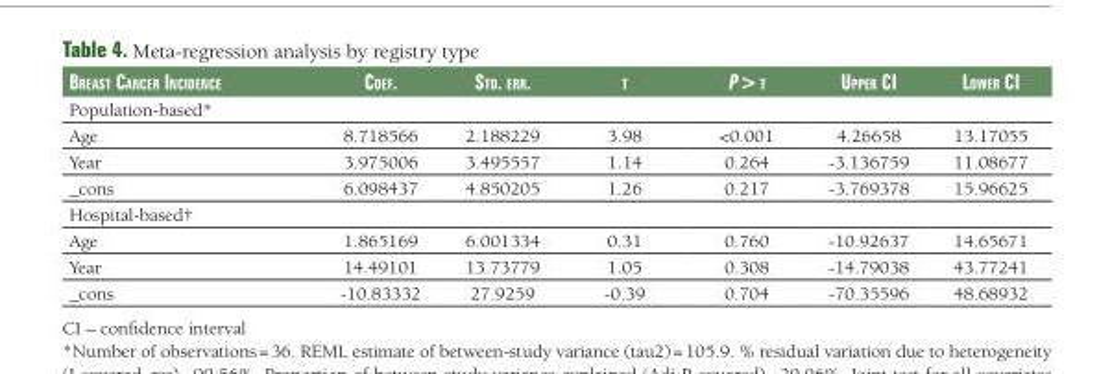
<table><thead><tr><td>breaSt caNcer iNcideNce</td><td>coef.</td><td>Std. err.</td><td>t</td><td>p &gt; t</td><td>upper ci</td><td>lower ci</td></tr></thead><tbody><tr><td colspan="7">Population-based*</td></tr><tr><td>Age</td><td>8.718566</td><td>2.188229</td><td>3.98</td><td>&lt;0.001</td><td>4.26658</td><td>13.17055</td></tr><tr><td>Year</td><td>3.975006</td><td>3.495557</td><td>1.14</td><td>0.264</td><td>-3.136759</td><td>11.08677</td></tr><tr><td>_cons</td><td>6.098437</td><td>4.850205</td><td>1.26</td><td>0.217</td><td>-3.769378</td><td>15.96625</td></tr><tr><td colspan="7">Hospital-based†</td></tr><tr><td>Age</td><td>1.865169</td><td>6.001334</td><td>0.31</td><td>0.760</td><td>-10.92637</td><td>14.65671</td></tr><tr><td>Year</td><td>14.49101</td><td>13.73779</td><td>1.05</td><td>0.308</td><td>-14.79038</td><td>43.77241</td></tr><tr><td>_cons</td><td>-10.83332</td><td>27.9259</td><td>-0.39</td><td>0.704</td><td>-70.35596</td><td>48.68932</td></tr></tbody></table>